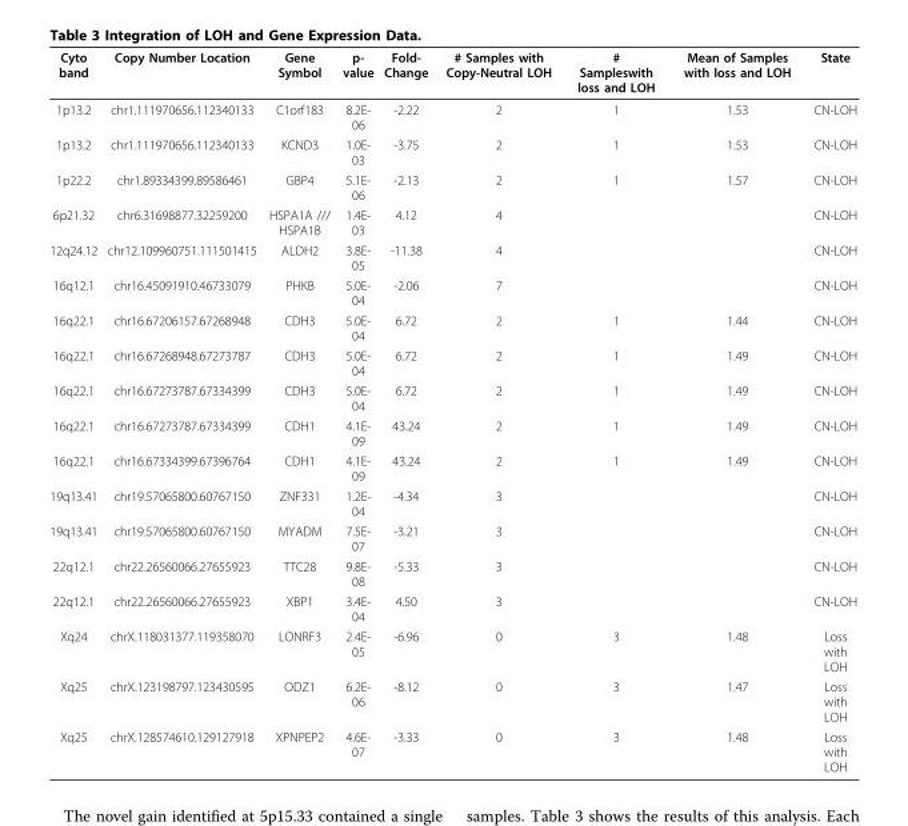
<table><thead><tr><td>Cyto band</td><td>Copy Number Location</td><td>Gene Symbol</td><td>p- value</td><td>Fold- Change</td><td># Samples with Copy-Neutral LOH</td><td># Sampleswith loss and LOH</td><td>Mean of Samples with loss and LOH</td><td>State</td></tr></thead><tbody><tr><td>1p13.2</td><td>chr1.111970656.112340133</td><td>C1orf183</td><td>8.2E- 06</td><td>-2.22</td><td>2</td><td>1</td><td>1.53</td><td>CN-LOH</td></tr><tr><td>1p13.2</td><td>chr1.111970656.112340133</td><td>KCND3</td><td>1.0E- 03</td><td>-3.75</td><td>2</td><td>1</td><td>1.53</td><td>CN-LOH</td></tr><tr><td>1p22.2</td><td>chr1.89334399.89586461</td><td>GBP4</td><td>5.1E- 06</td><td>-2.13</td><td>2</td><td>1</td><td>1.57</td><td>CN-LOH</td></tr><tr><td>6p21.32</td><td>chr6.31698877.32259200</td><td>HSPA1A /// HSPA1B</td><td>1.4E- 03</td><td>4.12</td><td>4</td><td></td><td></td><td>CN-LOH</td></tr><tr><td>12q24.12</td><td>chr12.109960751.111501415</td><td>ALDH2</td><td>3.8E- 05</td><td>-11.38</td><td>4</td><td></td><td></td><td>CN-LOH</td></tr><tr><td>16q12.1</td><td>chr16.45091910.46733079</td><td>PHKB</td><td>5.0E- 04</td><td>-2.06</td><td>7</td><td></td><td></td><td>CN-LOH</td></tr><tr><td>16q22.1</td><td>chr16.67206157.67268948</td><td>CDH3</td><td>5.0E- 04</td><td>6.72</td><td>2</td><td>1</td><td>1.44</td><td>CN-LOH</td></tr><tr><td>16q22.1</td><td>chr16.67268948.67273787</td><td>CDH3</td><td>5.0E- 04</td><td>6.72</td><td>2</td><td>1</td><td>1.49</td><td>CN-LOH</td></tr><tr><td>16q22.1</td><td>chr16.67273787.67334399</td><td>CDH3</td><td>5.0E- 04</td><td>6.72</td><td>2</td><td>1</td><td>1.49</td><td>CN-LOH</td></tr><tr><td>16q22.1</td><td>chr16.67273787.67334399</td><td>CDH1</td><td>4.1E- 09</td><td>43.24</td><td>2</td><td>1</td><td>1.49</td><td>CN-LOH</td></tr><tr><td>16q22.1</td><td>chr16.67334399.67396764</td><td>CDH1</td><td>4.1E- 09</td><td>43.24</td><td>2</td><td>1</td><td>1.49</td><td>CN-LOH</td></tr><tr><td>19q13.41</td><td>chr19.57065800.60767150</td><td>ZNF331</td><td>1.2E- 04</td><td>-4.34</td><td>3</td><td></td><td></td><td>CN-LOH</td></tr><tr><td>19q13.41</td><td>chr19.57065800.60767150</td><td>MYADM</td><td>7.5E- 07</td><td>-3.21</td><td>3</td><td></td><td></td><td>CN-LOH</td></tr><tr><td>22q12.1</td><td>chr22.26560066.27655923</td><td>TTC28</td><td>9.8E- 08</td><td>-5.33</td><td>3</td><td></td><td></td><td>CN-LOH</td></tr><tr><td>22q12.1</td><td>chr22.26560066.27655923</td><td>XBP1</td><td>3.4E- 04</td><td>4.50</td><td>3</td><td></td><td></td><td>CN-LOH</td></tr><tr><td>Xq24</td><td>chrX.118031377.119358070</td><td>LONRF3</td><td>2.4E- 05</td><td>-6.96</td><td>0</td><td>3</td><td>1.48</td><td>Loss with LOH</td></tr><tr><td>Xq25</td><td>chrX.123198797.123430595</td><td>ODZ1</td><td>6.2E- 06</td><td>-8.12</td><td>0</td><td>3</td><td>1.47</td><td>Loss with LOH</td></tr><tr><td>Xq25</td><td>chrX.128574610.129127918</td><td>XPNPEP2</td><td>4.6E- 07</td><td>-3.33</td><td>0</td><td>3</td><td>1.48</td><td>Loss with LOH</td></tr></tbody></table>